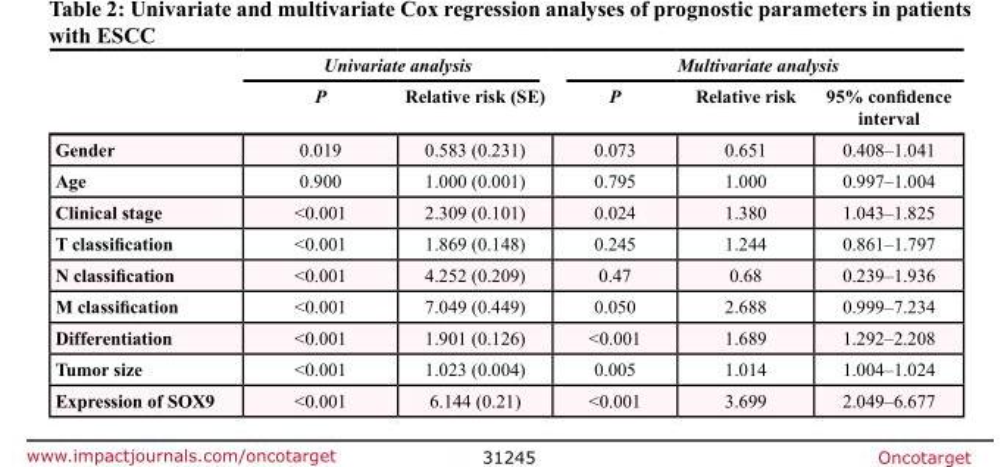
<table><thead><tr><td rowspan="2"></td><td colspan="2">Univariate analysis</td><td colspan="3">Multivariate analysis</td></tr><tr><td>P</td><td>Relative risk (SE)</td><td>P</td><td>Relative risk</td><td>95% confidence interval</td></tr></thead><tbody><tr><td>Gender</td><td>0.019</td><td>0.583 (0.231)</td><td>0.073</td><td>0.651</td><td>0.408–1.041</td></tr><tr><td>Age</td><td>0.900</td><td>1.000 (0.001)</td><td>0.795</td><td>1.000</td><td>0.997–1.004</td></tr><tr><td>Clinical stage</td><td>&lt;0.001</td><td>2.309 (0.101)</td><td>0.024</td><td>1.380</td><td>1.043–1.825</td></tr><tr><td>T classification</td><td>&lt;0.001</td><td>1.869 (0.148)</td><td>0.245</td><td>1.244</td><td>0.861–1.797</td></tr><tr><td>N classification</td><td>&lt;0.001</td><td>4.252 (0.209)</td><td>0.47</td><td>0.68</td><td>0.239–1.936</td></tr><tr><td>M classification</td><td>&lt;0.001</td><td>7.049 (0.449)</td><td>0.050</td><td>2.688</td><td>0.999–7.234</td></tr><tr><td>Differentiation</td><td>&lt;0.001</td><td>1.901 (0.126)</td><td>&lt;0.001</td><td>1.689</td><td>1.292–2.208</td></tr><tr><td>Tumor size</td><td>&lt;0.001</td><td>1.023 (0.004)</td><td>0.005</td><td>1.014</td><td>1.004–1.024</td></tr><tr><td>Expression of SOX9</td><td>&lt;0.001</td><td>6.144 (0.21)</td><td>&lt;0.001</td><td>3.699</td><td>2.049–6.677</td></tr></tbody></table>